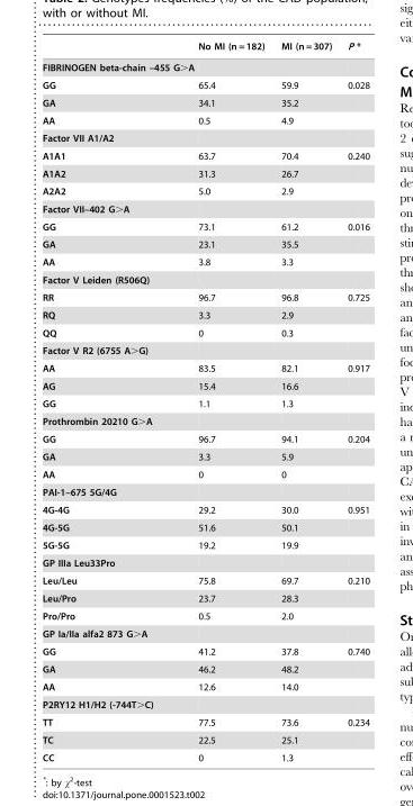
<table><thead><tr><td></td><td>No MI (n = 182)</td><td>MI (n = 307)</td><td>P *</td></tr></thead><tbody><tr><td colspan="4">FIBRINOGEN beta-chain –455 G&gt;A</td></tr><tr><td>GG</td><td>65.4</td><td>59.9</td><td>0.028</td></tr><tr><td>GA</td><td>34.1</td><td>35.2</td><td></td></tr><tr><td>AA</td><td>0.5</td><td>4.9</td><td></td></tr><tr><td colspan="4">Factor VII A1/A2</td></tr><tr><td>A1A1</td><td>63.7</td><td>70.4</td><td>0.240</td></tr><tr><td>A1A2</td><td>31.3</td><td>26.7</td><td></td></tr><tr><td>A2A2</td><td>5.0</td><td>2.9</td><td></td></tr><tr><td colspan="4">Factor VII–402 G&gt;A</td></tr><tr><td>GG</td><td>73.1</td><td>61.2</td><td>0.016</td></tr><tr><td>GA</td><td>23.1</td><td>35.5</td><td></td></tr><tr><td>AA</td><td>3.8</td><td>3.3</td><td></td></tr><tr><td colspan="4">Factor V Leiden (R506Q)</td></tr><tr><td>RR</td><td>96.7</td><td>96.8</td><td>0.725</td></tr><tr><td>RQ</td><td>3.3</td><td>2.9</td><td></td></tr><tr><td>QQ</td><td>0</td><td>0.3</td><td></td></tr><tr><td colspan="4">Factor V R2 (6755 A&gt;G)</td></tr><tr><td>AA</td><td>83.5</td><td>82.1</td><td>0.917</td></tr><tr><td>AG</td><td>15.4</td><td>16.6</td><td></td></tr><tr><td>GG</td><td>1.1</td><td>1.3</td><td></td></tr><tr><td colspan="4">Prothrombin 20210 G&gt;A</td></tr><tr><td>GG</td><td>96.7</td><td>94.1</td><td>0.204</td></tr><tr><td>GA</td><td>3.3</td><td>5.9</td><td></td></tr><tr><td>AA</td><td>0</td><td>0</td><td></td></tr><tr><td colspan="4">PAI-1–675 5G/4G</td></tr><tr><td>4G-4G</td><td>29.2</td><td>30.0</td><td>0.951</td></tr><tr><td>4G-5G</td><td>51.6</td><td>50.1</td><td></td></tr><tr><td>5G-5G</td><td>19.2</td><td>19.9</td><td></td></tr><tr><td colspan="4">GP IIIa Leu33Pro</td></tr><tr><td>Leu/Leu</td><td>75.8</td><td>69.7</td><td>0.210</td></tr><tr><td>Leu/Pro</td><td>23.7</td><td>28.3</td><td></td></tr><tr><td>Pro/Pro</td><td>0.5</td><td>2.0</td><td></td></tr><tr><td colspan="4">GP Ia/IIa alfa2 873 G&gt;A</td></tr><tr><td>GG</td><td>41.2</td><td>37.8</td><td>0.740</td></tr><tr><td>GA</td><td>46.2</td><td>48.2</td><td></td></tr><tr><td>AA</td><td>12.6</td><td>14.0</td><td></td></tr><tr><td colspan="4">P2RY12 H1/H2 (-744T&gt;C)</td></tr><tr><td>TT</td><td>77.5</td><td>73.6</td><td>0.234</td></tr><tr><td>TC</td><td>22.5</td><td>25.1</td><td></td></tr><tr><td>CC</td><td>0</td><td>1.3</td><td></td></tr></tbody></table>